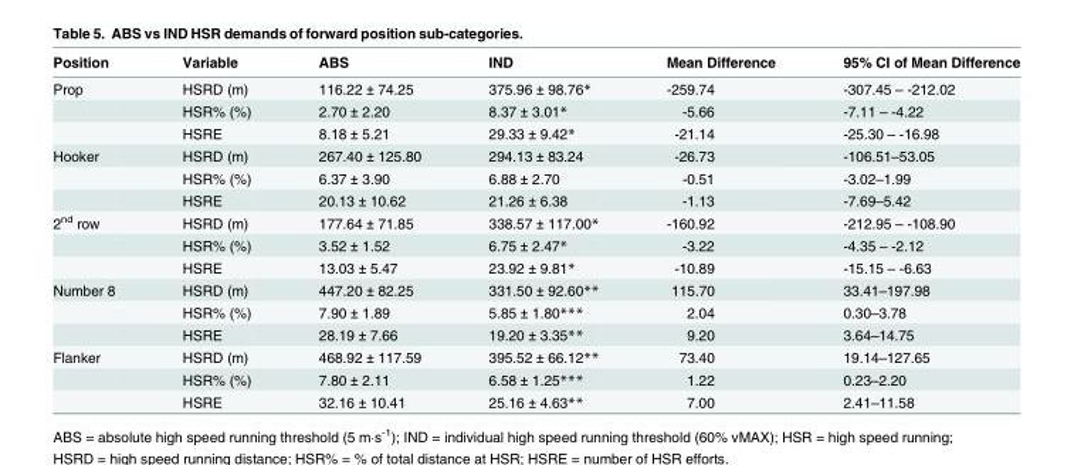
<table><thead><tr><td>Position</td><td>Variable</td><td>ABS</td><td>IND</td><td>Mean Difference</td><td>95% CI of Mean Difference</td></tr></thead><tbody><tr><td rowspan="3">Prop</td><td>HSRD (m)</td><td>116.22 ± 74.25</td><td>375.96 ± 98.76*</td><td>-259.74</td><td>-307.45 – -212.02</td></tr><tr><td>HSR% (%)</td><td>2.70 ± 2.20</td><td>8.37 ± 3.01*</td><td>-5.66</td><td>-7.11 – -4.22</td></tr><tr><td>HSRE</td><td>8.18 ± 5.21</td><td>29.33 ± 9.42*</td><td>-21.14</td><td>-25.30 – -16.98</td></tr><tr><td rowspan="3">Hooker</td><td>HSRD (m)</td><td>267.40 ± 125.80</td><td>294.13 ± 83.24</td><td>-26.73</td><td>-106.51–53.05</td></tr><tr><td>HSR% (%)</td><td>6.37 ± 3.90</td><td>6.88 ± 2.70</td><td>-0.51</td><td>-3.02–1.99</td></tr><tr><td>HSRE</td><td>20.13 ± 10.62</td><td>21.26 ± 6.38</td><td>-1.13</td><td>-7.69–5.42</td></tr><tr><td rowspan="3">2<sup>nd</sup> row</td><td>HSRD (m)</td><td>177.64 ± 71.85</td><td>338.57 ± 117.00*</td><td>-160.92</td><td>-212.95 – -108.90</td></tr><tr><td>HSR% (%)</td><td>3.52 ± 1.52</td><td>6.75 ± 2.47*</td><td>-3.22</td><td>-4.35 – -2.12</td></tr><tr><td>HSRE</td><td>13.03 ± 5.47</td><td>23.92 ± 9.81*</td><td>-10.89</td><td>-15.15 – -6.63</td></tr><tr><td rowspan="3">Number 8</td><td>HSRD (m)</td><td>447.20 ± 82.25</td><td>331.50 ± 92.60**</td><td>115.70</td><td>33.41–197.98</td></tr><tr><td>HSR% (%)</td><td>7.90 ± 1.89</td><td>5.85 ± 1.80***</td><td>2.04</td><td>0.30–3.78</td></tr><tr><td>HSRE</td><td>28.19 ± 7.66</td><td>19.20 ± 3.35**</td><td>9.20</td><td>3.64–14.75</td></tr><tr><td rowspan="3">Flanker</td><td>HSRD (m)</td><td>468.92 ± 117.59</td><td>395.52 ± 66.12**</td><td>73.40</td><td>19.14–127.65</td></tr><tr><td>HSR% (%)</td><td>7.80 ± 2.11</td><td>6.58 ± 1.25***</td><td>1.22</td><td>0.23–2.20</td></tr><tr><td>HSRE</td><td>32.16 ± 10.41</td><td>25.16 ± 4.63**</td><td>7.00</td><td>2.41–11.58</td></tr></tbody></table>